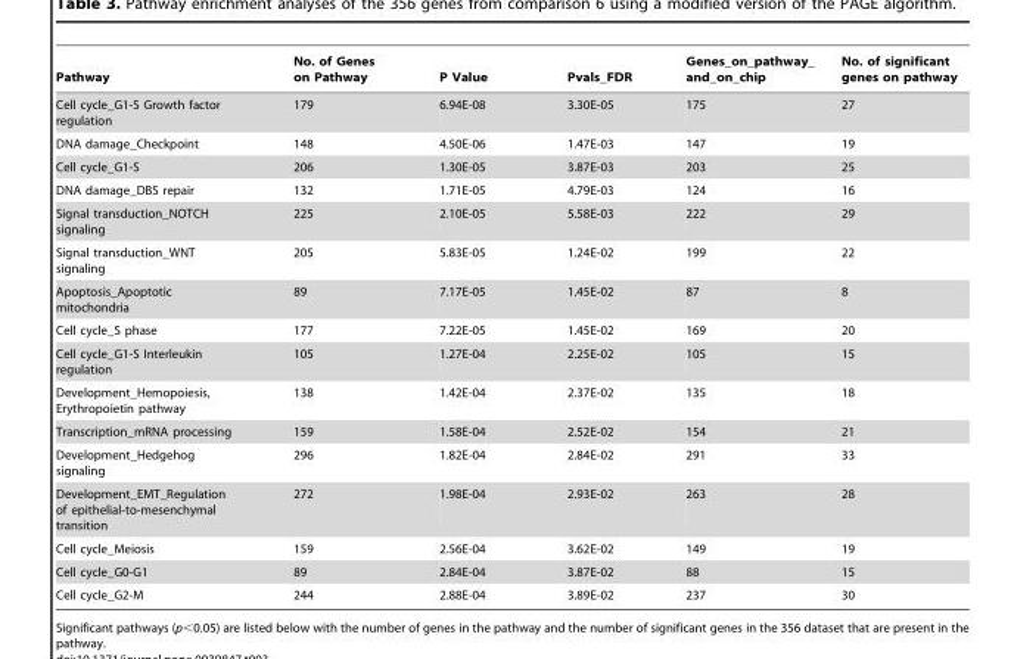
<table><thead><tr><td>Pathway</td><td>No. of Genes on Pathway</td><td>P Value</td><td>Pvals_FDR</td><td>Genes_on_pathway_ and_on_chip</td><td>No. of significant genes on pathway</td></tr></thead><tbody><tr><td>Cell cycle_G1-S Growth factor regulation</td><td>179</td><td>6.94E-08</td><td>3.30E-05</td><td>175</td><td>27</td></tr><tr><td>DNA damage_Checkpoint</td><td>148</td><td>4.50E-06</td><td>1.47E-03</td><td>147</td><td>19</td></tr><tr><td>Cell cycle_G1-S</td><td>206</td><td>1.30E-05</td><td>3.87E-03</td><td>203</td><td>25</td></tr><tr><td>DNA damage_DBS repair</td><td>132</td><td>1.71E-05</td><td>4.79E-03</td><td>124</td><td>16</td></tr><tr><td>Signal transduction_NOTCH signaling</td><td>225</td><td>2.10E-05</td><td>5.58E-03</td><td>222</td><td>29</td></tr><tr><td>Signal transduction_WNT signaling</td><td>205</td><td>5.83E-05</td><td>1.24E-02</td><td>199</td><td>22</td></tr><tr><td>Apoptosis_Apoptotic mitochondria</td><td>89</td><td>7.17E-05</td><td>1.45E-02</td><td>87</td><td>8</td></tr><tr><td>Cell cycle_S phase</td><td>177</td><td>7.22E-05</td><td>1.45E-02</td><td>169</td><td>20</td></tr><tr><td>Cell cycle_G1-S Interleukin regulation</td><td>105</td><td>1.27E-04</td><td>2.25E-02</td><td>105</td><td>15</td></tr><tr><td>Development_Hemopoiesis, Erythropoietin pathway</td><td>138</td><td>1.42E-04</td><td>2.37E-02</td><td>135</td><td>18</td></tr><tr><td>Transcription_mRNA processing</td><td>159</td><td>1.58E-04</td><td>2.52E-02</td><td>154</td><td>21</td></tr><tr><td>Development_Hedgehog signaling</td><td>296</td><td>1.82E-04</td><td>2.84E-02</td><td>291</td><td>33</td></tr><tr><td>Development_EMT_Regulation of epithelial-to-mesenchymal transition</td><td>272</td><td>1.98E-04</td><td>2.93E-02</td><td>263</td><td>28</td></tr><tr><td>Cell cycle_Meiosis</td><td>159</td><td>2.56E-04</td><td>3.62E-02</td><td>149</td><td>19</td></tr><tr><td>Cell cycle_G0-G1</td><td>89</td><td>2.84E-04</td><td>3.87E-02</td><td>88</td><td>15</td></tr><tr><td>Cell cycle_G2-M</td><td>244</td><td>2.88E-04</td><td>3.89E-02</td><td>237</td><td>30</td></tr></tbody></table>